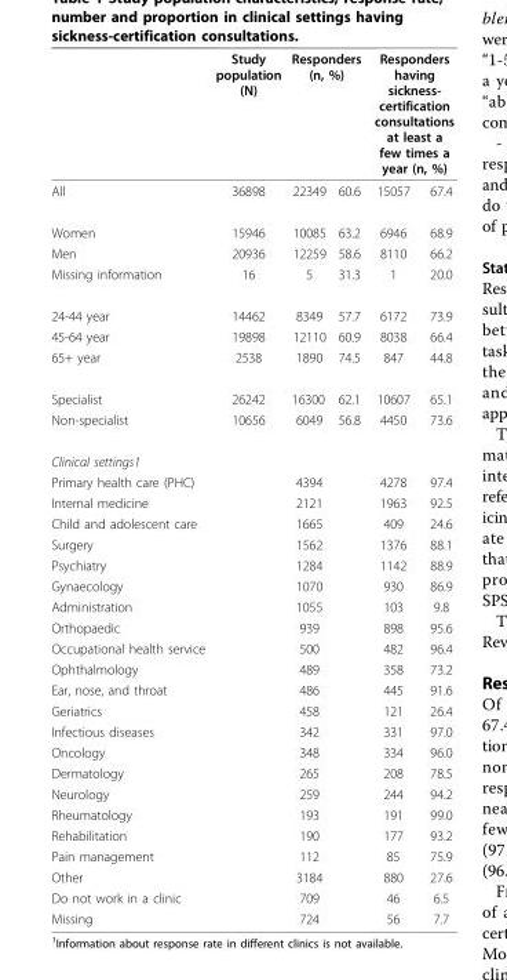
<table><thead><tr><td rowspan="2">All</td><td rowspan="2">Study population (N) 36898</td><td colspan="2">Responders (n, %)</td><td colspan="2">Responders having sickness- certification consultations at least a few times a year (n, %)</td></tr><tr><td>22349</td><td>60.6</td><td>15057</td><td>67.4</td></tr></thead><tbody><tr><td>Women</td><td>15946</td><td>10085</td><td>63.2</td><td>6946</td><td>68.9</td></tr><tr><td>Men</td><td>20936</td><td>12259</td><td>58.6</td><td>8110</td><td>66.2</td></tr><tr><td>Missing information</td><td>16</td><td>5</td><td>31.3</td><td>1</td><td>20.0</td></tr><tr><td>24-44 year</td><td>14462</td><td>8349</td><td>57.7</td><td>6172</td><td>73.9</td></tr><tr><td>45-64 year</td><td>19898</td><td>12110</td><td>60.9</td><td>8038</td><td>66.4</td></tr><tr><td>65+ year</td><td>2538</td><td>1890</td><td>74.5</td><td>847</td><td>44.8</td></tr><tr><td>Specialist</td><td>26242</td><td>16300</td><td>62.1</td><td>10607</td><td>65.1</td></tr><tr><td>Non-specialist</td><td>10656</td><td>6049</td><td>56.8</td><td>4450</td><td>73.6</td></tr><tr><td colspan="6">Clinical settings1</td></tr><tr><td>Primary health care (PHC)</td><td></td><td>4394</td><td></td><td>4278</td><td>97.4</td></tr><tr><td>Internal medicine</td><td></td><td>2121</td><td></td><td>1963</td><td>92.5</td></tr><tr><td>Child and adolescent care</td><td></td><td>1665</td><td></td><td>409</td><td>24.6</td></tr><tr><td>Surgery</td><td></td><td>1562</td><td></td><td>1376</td><td>88.1</td></tr><tr><td>Psychiatry</td><td></td><td>1284</td><td></td><td>1142</td><td>88.9</td></tr><tr><td>Gynaecology</td><td></td><td>1070</td><td></td><td>930</td><td>86.9</td></tr><tr><td>Administration</td><td></td><td>1055</td><td></td><td>103</td><td>9.8</td></tr><tr><td>Orthopaedic</td><td></td><td>939</td><td></td><td>898</td><td>95.6</td></tr><tr><td>Occupational health service</td><td></td><td>500</td><td></td><td>482</td><td>96.4</td></tr><tr><td>Ophthalmology</td><td></td><td>489</td><td></td><td>358</td><td>73.2</td></tr><tr><td>Ear, nose, and throat</td><td></td><td>486</td><td></td><td>445</td><td>91.6</td></tr><tr><td>Geriatrics</td><td></td><td>458</td><td></td><td>121</td><td>26.4</td></tr><tr><td>Infectious diseases</td><td></td><td>342</td><td></td><td>331</td><td>97.0</td></tr><tr><td>Oncology</td><td></td><td>348</td><td></td><td>334</td><td>96.0</td></tr><tr><td>Dermatology</td><td></td><td>265</td><td></td><td>208</td><td>78.5</td></tr><tr><td>Neurology</td><td></td><td>259</td><td></td><td>244</td><td>94.2</td></tr><tr><td>Rheumatology</td><td></td><td>193</td><td></td><td>191</td><td>99.0</td></tr><tr><td>Rehabilitation</td><td></td><td>190</td><td></td><td>177</td><td>93.2</td></tr><tr><td>Pain management</td><td></td><td>112</td><td></td><td>85</td><td>75.9</td></tr><tr><td>Other</td><td></td><td>3184</td><td></td><td>880</td><td>27.6</td></tr><tr><td>Do not work in a clinic</td><td></td><td>709</td><td></td><td>46</td><td>6.5</td></tr><tr><td>Missing</td><td></td><td>724</td><td></td><td>56</td><td>7.7</td></tr></tbody></table>